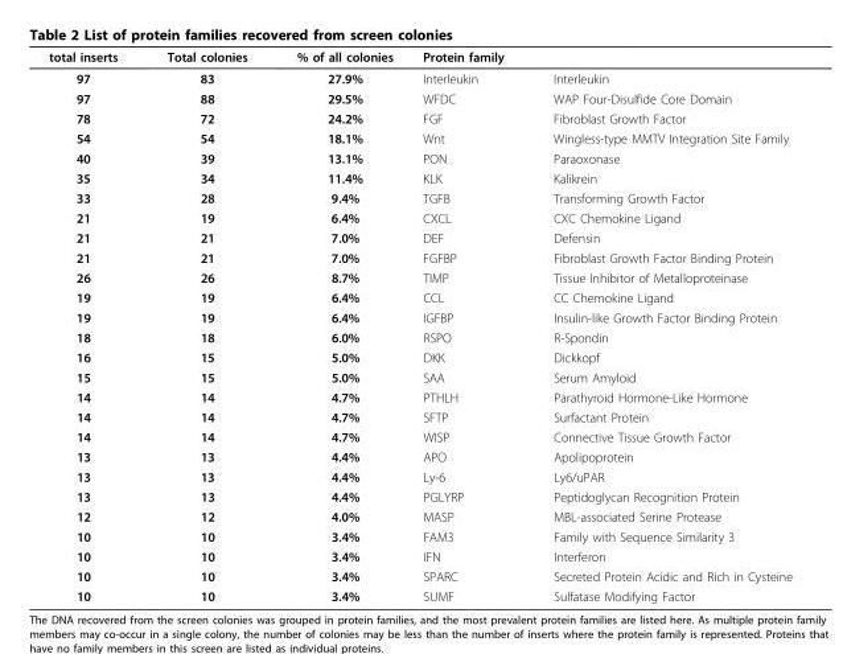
<table><tbody><tr><td>total inserts</td><td>Total colonies</td><td>% of all colonies</td><td>Protein family</td><td></td></tr><tr><td>97</td><td>83</td><td>27.9%</td><td>Interleukin</td><td>Interleukin</td></tr><tr><td>97</td><td>88</td><td>29.5%</td><td>WFDC</td><td>WAP Four-Disulfide Core Domain</td></tr><tr><td>78</td><td>72</td><td>24.2%</td><td>FGF</td><td>Fibroblast Growth Factor</td></tr><tr><td>54</td><td>54</td><td>18.1%</td><td>Wnt</td><td>Wingless-type MMTV Integration Site Family</td></tr><tr><td>40</td><td>39</td><td>13.1%</td><td>PON</td><td>Paraoxonase</td></tr><tr><td>35</td><td>34</td><td>11.4%</td><td>KLK</td><td>Kalikrein</td></tr><tr><td>33</td><td>28</td><td>9.4%</td><td>TGFB</td><td>Transforming Growth Factor</td></tr><tr><td>21</td><td>19</td><td>6.4%</td><td>CXCL</td><td>CXC Chemokine Ligand</td></tr><tr><td>21</td><td>21</td><td>7.0%</td><td>DEF</td><td>Defensin</td></tr><tr><td>21</td><td>21</td><td>7.0%</td><td>FGFBP</td><td>Fibroblast Growth Factor Binding Protein</td></tr><tr><td>26</td><td>26</td><td>8.7%</td><td>TIMP</td><td>Tissue Inhibitor of Metalloproteinase</td></tr><tr><td>19</td><td>19</td><td>6.4%</td><td>CCL</td><td>CC Chemokine Ligand</td></tr><tr><td>19</td><td>19</td><td>6.4%</td><td>IGFBP</td><td>Insulin-like Growth Factor Binding Protein</td></tr><tr><td>18</td><td>18</td><td>6.0%</td><td>RSPO</td><td>R-Spondin</td></tr><tr><td>16</td><td>15</td><td>5.0%</td><td>DKK</td><td>Dickkopf</td></tr><tr><td>15</td><td>15</td><td>5.0%</td><td>SAA</td><td>Serum Amyloid</td></tr><tr><td>14</td><td>14</td><td>4.7%</td><td>PTHLH</td><td>Parathyroid Hormone-Like Hormone</td></tr><tr><td>14</td><td>14</td><td>4.7%</td><td>SFTP</td><td>Surfactant Protein</td></tr><tr><td>14</td><td>14</td><td>4.7%</td><td>WISP</td><td>Connective Tissue Growth Factor</td></tr><tr><td>13</td><td>13</td><td>4.4%</td><td>APO</td><td>Apolipoprotein</td></tr><tr><td>13</td><td>13</td><td>4.4%</td><td>Ly-6</td><td>Ly6/uPAR</td></tr><tr><td>13</td><td>13</td><td>4.4%</td><td>PGLYRP</td><td>Peptidoglycan Recognition Protein</td></tr><tr><td>12</td><td>12</td><td>4.0%</td><td>MASP</td><td>MBL-associated Serine Protease</td></tr><tr><td>10</td><td>10</td><td>3.4%</td><td>FAM3</td><td>Family with Sequence Similarity 3</td></tr><tr><td>10</td><td>10</td><td>3.4%</td><td>IFN</td><td>Interferon</td></tr><tr><td>10</td><td>10</td><td>3.4%</td><td>SPARC</td><td>Secreted Protein Acidic and Rich in Cysteine</td></tr><tr><td>10</td><td>10</td><td>3.4%</td><td>SUMF</td><td>Sulfatase Modifying Factor</td></tr></tbody></table>